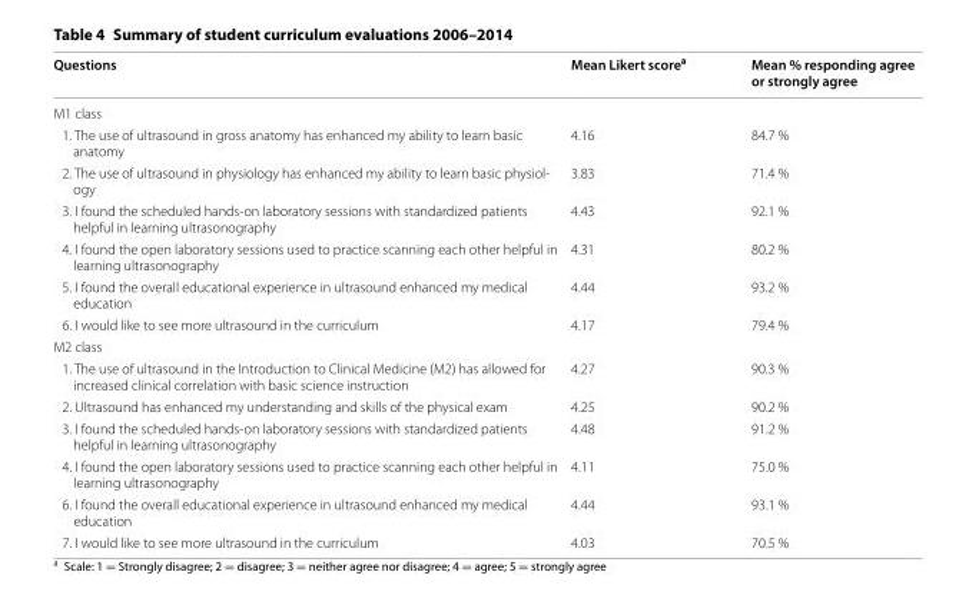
<table><thead><tr><td>Questions</td><td>Mean Likert score<sup>a</sup></td><td>Mean % responding agree or strongly agree</td></tr></thead><tbody><tr><td colspan="3">M1 class</td></tr><tr><td>1. The use of ultrasound in gross anatomy has enhanced my ability to learn basic anatomy</td><td>4.16</td><td>84.7 %</td></tr><tr><td>2. The use of ultrasound in physiology has enhanced my ability to learn basic physiol- ogy</td><td>3.83</td><td>71.4 %</td></tr><tr><td>3. I found the scheduled hands-on laboratory sessions with standardized patients helpful in learning ultrasonography</td><td>4.43</td><td>92.1 %</td></tr><tr><td>4. I found the open laboratory sessions used to practice scanning each other helpful in learning ultrasonography</td><td>4.31</td><td>80.2 %</td></tr><tr><td>5. I found the overall educational experience in ultrasound enhanced my medical education</td><td>4.44</td><td>93.2 %</td></tr><tr><td>6. I would like to see more ultrasound in the curriculum</td><td>4.17</td><td>79.4 %</td></tr><tr><td colspan="3">M2 class</td></tr><tr><td>1. The use of ultrasound in the Introduction to Clinical Medicine (M2) has allowed for increased clinical correlation with basic science instruction</td><td>4.27</td><td>90.3 %</td></tr><tr><td>2. Ultrasound has enhanced my understanding and skills of the physical exam</td><td>4.25</td><td>90.2 %</td></tr><tr><td>3. I found the scheduled hands-on laboratory sessions with standardized patients helpful in learning ultrasonography</td><td>4.48</td><td>91.2 %</td></tr><tr><td>4. I found the open laboratory sessions used to practice scanning each other helpful in learning ultrasonography</td><td>4.11</td><td>75.0 %</td></tr><tr><td>6. I found the overall educational experience in ultrasound enhanced my medical education</td><td>4.44</td><td>93.1 %</td></tr><tr><td>7. I would like to see more ultrasound in the curriculum</td><td>4.03</td><td>70.5 %</td></tr></tbody></table>